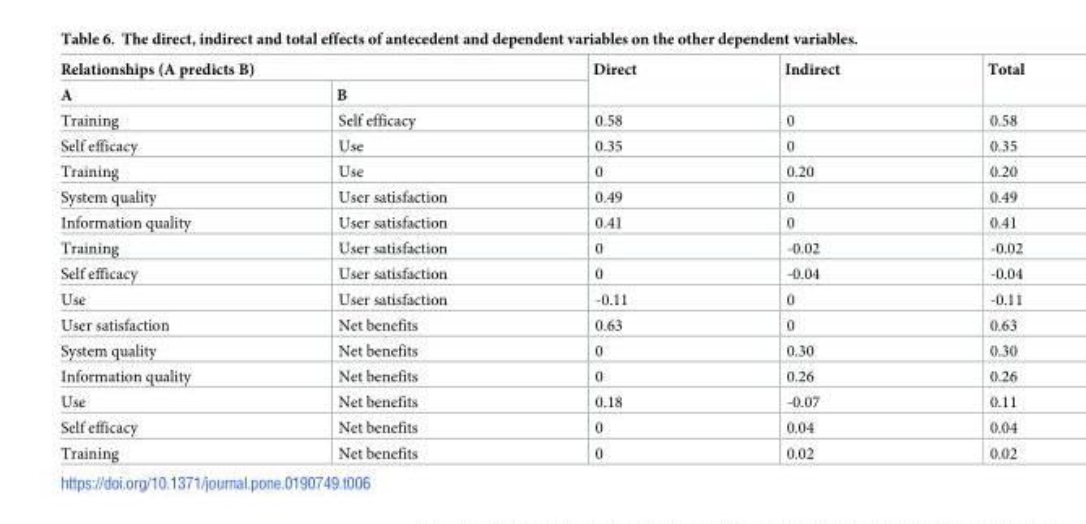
<table><thead><tr><td colspan="2">Relationships (A predicts B)</td><td rowspan="2">Direct</td><td rowspan="2">Indirect</td><td rowspan="2">Total</td></tr><tr><td>A</td><td>B</td></tr></thead><tbody><tr><td>Training</td><td>Self efficacy</td><td>0.58</td><td>0</td><td>0.58</td></tr><tr><td>Self efficacy</td><td>Use</td><td>0.35</td><td>0</td><td>0.35</td></tr><tr><td>Training</td><td>Use</td><td>0</td><td>0.20</td><td>0.20</td></tr><tr><td>System quality</td><td>User satisfaction</td><td>0.49</td><td>0</td><td>0.49</td></tr><tr><td>Information quality</td><td>User satisfaction</td><td>0.41</td><td>0</td><td>0.41</td></tr><tr><td>Training</td><td>User satisfaction</td><td>0</td><td>-0.02</td><td>-0.02</td></tr><tr><td>Self efficacy</td><td>User satisfaction</td><td>0</td><td>-0.04</td><td>-0.04</td></tr><tr><td>Use</td><td>User satisfaction</td><td>-0.11</td><td>0</td><td>-0.11</td></tr><tr><td>User satisfaction</td><td>Net benefits</td><td>0.63</td><td>0</td><td>0.63</td></tr><tr><td>System quality</td><td>Net benefits</td><td>0</td><td>0.30</td><td>0.30</td></tr><tr><td>Information quality</td><td>Net benefits</td><td>0</td><td>0.26</td><td>0.26</td></tr><tr><td>Use</td><td>Net benefits</td><td>0.18</td><td>-0.07</td><td>0.11</td></tr><tr><td>Self efficacy</td><td>Net benefits</td><td>0</td><td>0.04</td><td>0.04</td></tr><tr><td>Training</td><td>Net benefits</td><td>0</td><td>0.02</td><td>0.02</td></tr></tbody></table>